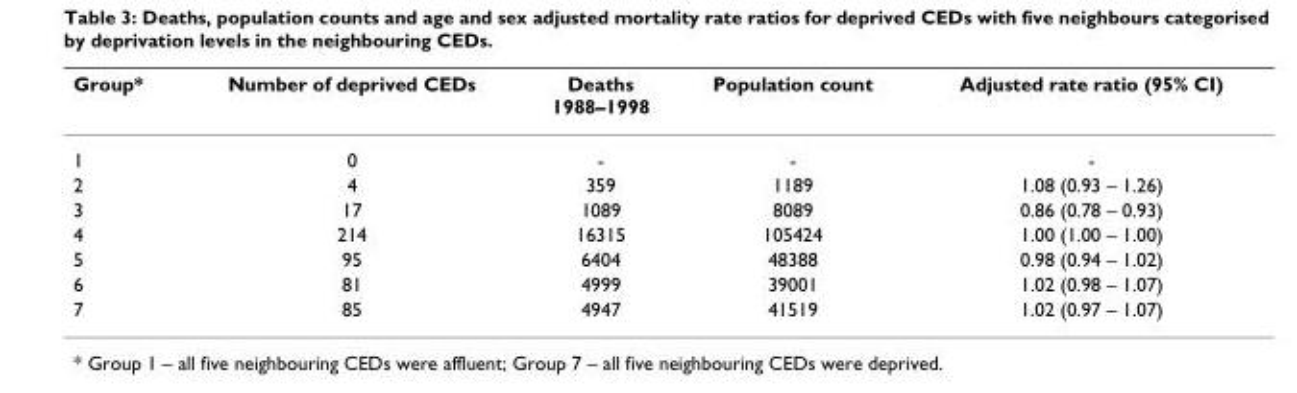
<table><thead><tr><td>Group*</td><td>Number of deprived CEDs</td><td>Deaths 1988–1998</td><td>Population count</td><td>Adjusted rate ratio (95% CI)</td></tr></thead><tbody><tr><td>1</td><td>0</td><td>-</td><td>-</td><td>-</td></tr><tr><td>2</td><td>4</td><td>359</td><td>1189</td><td>1.08 (0.93 – 1.26)</td></tr><tr><td>3</td><td>17</td><td>1089</td><td>8089</td><td>0.86 (0.78 – 0.93)</td></tr><tr><td>4</td><td>214</td><td>16315</td><td>105424</td><td>1.00 (1.00 – 1.00)</td></tr><tr><td>5</td><td>95</td><td>6404</td><td>48388</td><td>0.98 (0.94 – 1.02)</td></tr><tr><td>6</td><td>81</td><td>4999</td><td>39001</td><td>1.02 (0.98 – 1.07)</td></tr><tr><td>7</td><td>85</td><td>4947</td><td>41519</td><td>1.02 (0.97 – 1.07)</td></tr></tbody></table>